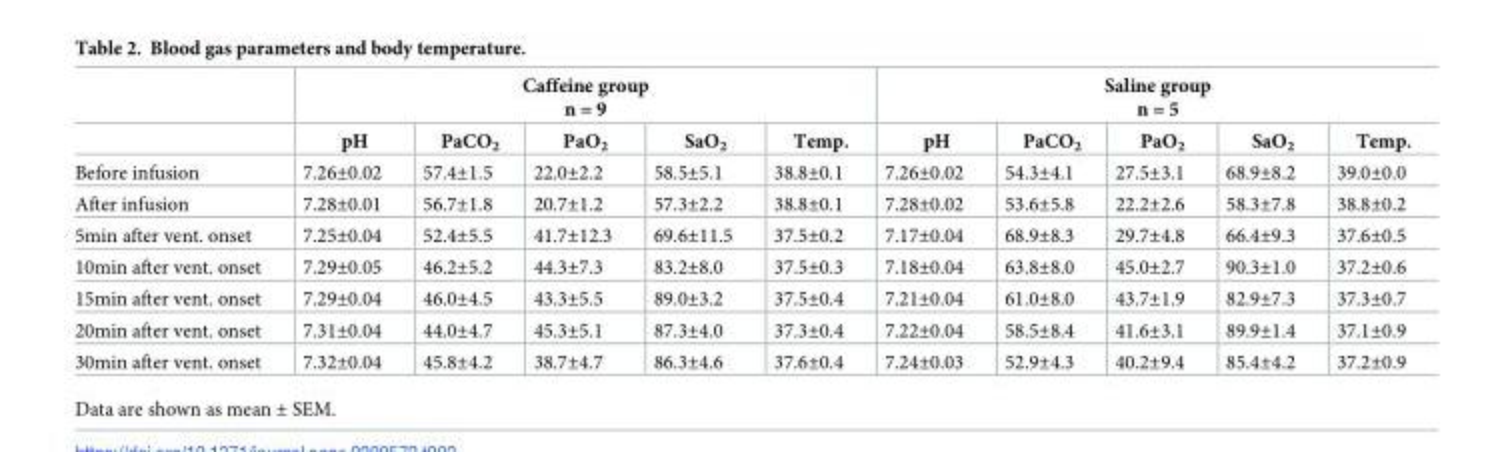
<table><thead><tr><td rowspan="2"></td><td colspan="5">Caffeine group n = 9</td><td colspan="5">Saline group n = 5</td></tr><tr><td>pH</td><td>PaCO<sub>2</sub></td><td>PaO<sub>2</sub></td><td>SaO<sub>2</sub></td><td>Temp.</td><td>pH</td><td>PaCO<sub>2</sub></td><td>PaO<sub>2</sub></td><td>SaO<sub>2</sub></td><td>Temp.</td></tr></thead><tbody><tr><td>Before infusion</td><td>7.26±0.02</td><td>57.4±1.5</td><td>22.0±2.2</td><td>58.5±5.1</td><td>38.8±0.1</td><td>7.26±0.02</td><td>54.3±4.1</td><td>27.5±3.1</td><td>68.9±8.2</td><td>39.0±0.0</td></tr><tr><td>After infusion</td><td>7.28±0.01</td><td>56.7±1.8</td><td>20.7±1.2</td><td>57.3±2.2</td><td>38.8±0.1</td><td>7.28±0.02</td><td>53.6±5.8</td><td>22.2±2.6</td><td>58.3±7.8</td><td>38.8±0.2</td></tr><tr><td>5min after vent. onset</td><td>7.25±0.04</td><td>52.4±5.5</td><td>41.7±12.3</td><td>69.6±11.5</td><td>37.5±0.2</td><td>7.17±0.04</td><td>68.9±8.3</td><td>29.7±4.8</td><td>66.4±9.3</td><td>37.6±0.5</td></tr><tr><td>10min after vent. onset</td><td>7.29±0.05</td><td>46.2±5.2</td><td>44.3±7.3</td><td>83.2±8.0</td><td>37.5±0.3</td><td>7.18±0.04</td><td>63.8±8.0</td><td>45.0±2.7</td><td>90.3±1.0</td><td>37.2±0.6</td></tr><tr><td>15min after vent. onset</td><td>7.29±0.04</td><td>46.0±4.5</td><td>43.3±5.5</td><td>89.0±3.2</td><td>37.5±0.4</td><td>7.21±0.04</td><td>61.0±8.0</td><td>43.7±1.9</td><td>82.9±7.3</td><td>37.3±0.7</td></tr><tr><td>20min after vent. onset</td><td>7.31±0.04</td><td>44.0±4.7</td><td>45.3±5.1</td><td>87.3±4.0</td><td>37.3±0.4</td><td>7.22±0.04</td><td>58.5±8.4</td><td>41.6±3.1</td><td>89.9±1.4</td><td>37.1±0.9</td></tr><tr><td>30min after vent. onset</td><td>7.32±0.04</td><td>45.8±4.2</td><td>38.7±4.7</td><td>86.3±4.6</td><td>37.6±0.4</td><td>7.24±0.03</td><td>52.9±4.3</td><td>40.2±9.4</td><td>85.4±4.2</td><td>37.2±0.9</td></tr></tbody></table>